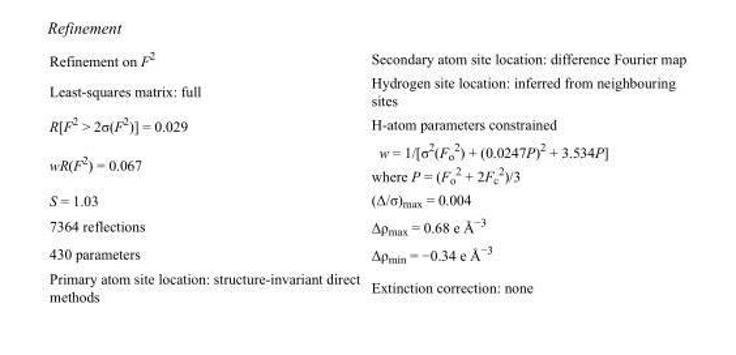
<table><tbody><tr><td>Refinement on F<sup>2</sup></td><td>Secondary atom site location: difference Fourier map</td></tr><tr><td>Least-squares matrix: full</td><td>Hydrogen site location: inferred from neighbouring sites</td></tr><tr><td>R[F<sup>2</sup> &gt; 2σ(F<sup>2</sup>)] = 0.029</td><td>H-atom parameters constrained</td></tr><tr><td>wR(F<sup>2</sup>) = 0.067</td><td>w = 1/[σ<sup>2</sup>(F<sub>o</sub> <sup>2</sup>) + (0.0247P)<sup>2</sup> + 3.534P] where P = (F<sub>o</sub> <sup>2</sup> + 2F<sub>c</sub> <sup>2</sup>)/3</td></tr><tr><td>S = 1.03</td><td>(Δ/σ)<sub>max</sub> = 0.004</td></tr><tr><td>7364 reflections</td><td>Δρ<sub>max</sub> = 0.68 e Å<sup>−3</sup></td></tr><tr><td>430 parameters</td><td>Δρ<sub>min</sub> = −0.34 e Å<sup>−3</sup></td></tr><tr><td>Primary atom site location: structure-invariant direct methods</td><td>Extinction correction: none</td></tr></tbody></table>